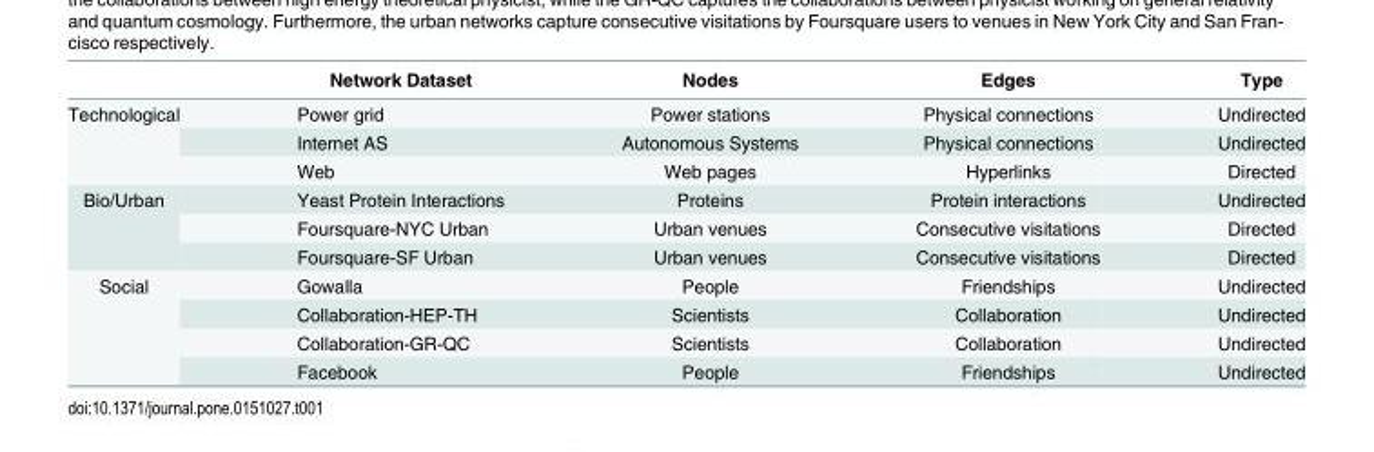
<table><thead><tr><td></td><td>Network Dataset</td><td>Nodes</td><td>Edges</td><td>Type</td></tr></thead><tbody><tr><td rowspan="3">Technological</td><td>Power grid</td><td>Power stations</td><td>Physical connections</td><td>Undirected</td></tr><tr><td>Internet AS</td><td>Autonomous Systems</td><td>Physical connections</td><td>Undirected</td></tr><tr><td>Web</td><td>Web pages</td><td>Hyperlinks</td><td>Directed</td></tr><tr><td rowspan="3">Bio/Urban</td><td>Yeast Protein Interactions</td><td>Proteins</td><td>Protein interactions</td><td>Undirected</td></tr><tr><td>Foursquare-NYC Urban</td><td>Urban venues</td><td>Consecutive visitations</td><td>Directed</td></tr><tr><td>Foursquare-SF Urban</td><td>Urban venues</td><td>Consecutive visitations</td><td>Directed</td></tr><tr><td rowspan="4">Social</td><td>Gowalla</td><td>People</td><td>Friendships</td><td>Undirected</td></tr><tr><td>Collaboration-HEP-TH</td><td>Scientists</td><td>Collaboration</td><td>Undirected</td></tr><tr><td>Collaboration-GR-QC</td><td>Scientists</td><td>Collaboration</td><td>Undirected</td></tr><tr><td>Facebook</td><td>People</td><td>Friendships</td><td>Undirected</td></tr></tbody></table>